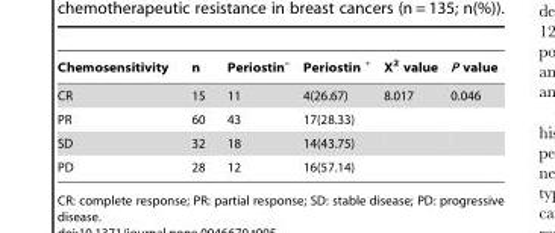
<table><thead><tr><td>Chemosensitivity</td><td>n</td><td>Periostin<sup>–</sup></td><td>Periostin <sup>+</sup></td><td>X<sup>2</sup> value</td><td>P value</td></tr></thead><tbody><tr><td>CR</td><td>15</td><td>11</td><td>4(26.67)</td><td>8.017</td><td>0.046</td></tr><tr><td>PR</td><td>60</td><td>43</td><td>17(28.33)</td><td></td><td></td></tr><tr><td>SD</td><td>32</td><td>18</td><td>14(43.75)</td><td></td><td></td></tr><tr><td>PD</td><td>28</td><td>12</td><td>16(57.14)</td><td></td><td></td></tr></tbody></table>